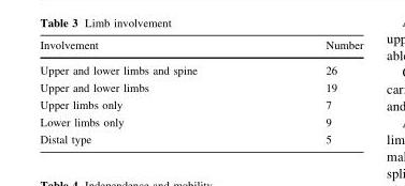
<table><thead><tr><td>Involvement</td><td>Number</td></tr></thead><tbody><tr><td>Upper and lower limbs and spine</td><td>26</td></tr><tr><td>Upper and lower limbs</td><td>19</td></tr><tr><td>Upper limbs only</td><td>7</td></tr><tr><td>Lower limbs only</td><td>9</td></tr><tr><td>Distal type</td><td>5</td></tr></tbody></table>